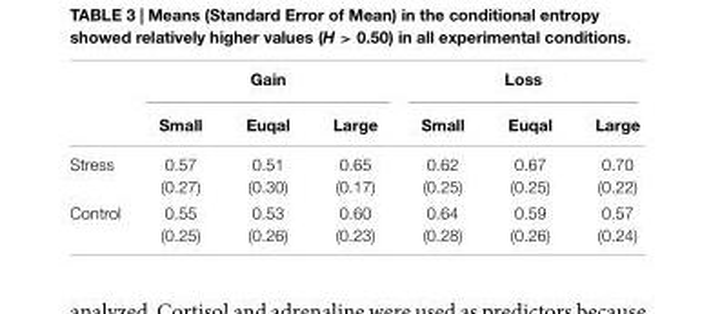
<table><thead><tr><td rowspan="2"></td><td colspan="3">Gain</td><td colspan="3">Loss</td></tr><tr><td>Small</td><td>Euqal</td><td>Large</td><td>Small</td><td>Euqal</td><td>Large</td></tr></thead><tbody><tr><td>Stress</td><td>0.57 (0.27)</td><td>0.51 (0.30)</td><td>0.65 (0.17)</td><td>0.62 (0.25)</td><td>0.67 (0.25)</td><td>0.70 (0.22)</td></tr><tr><td>Control</td><td>0.55 (0.25)</td><td>0.53 (0.26)</td><td>0.60 (0.23)</td><td>0.64 (0.28)</td><td>0.59 (0.26)</td><td>0.57 (0.24)</td></tr></tbody></table>